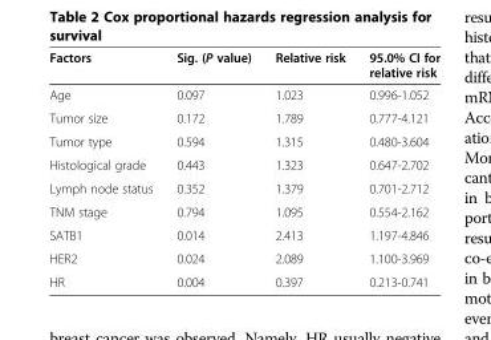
<table><thead><tr><td>Factors</td><td>Sig. (P value)</td><td>Relative risk</td><td>95.0% CI for relative risk</td></tr></thead><tbody><tr><td>Age</td><td>0.097</td><td>1.023</td><td>0.996-1.052</td></tr><tr><td>Tumor size</td><td>0.172</td><td>1.789</td><td>0.777-4.121</td></tr><tr><td>Tumor type</td><td>0.594</td><td>1.315</td><td>0.480-3.604</td></tr><tr><td>Histological grade</td><td>0.443</td><td>1.323</td><td>0.647-2.702</td></tr><tr><td>Lymph node status</td><td>0.352</td><td>1.379</td><td>0.701-2.712</td></tr><tr><td>TNM stage</td><td>0.794</td><td>1.095</td><td>0.554-2.162</td></tr><tr><td>SATB1</td><td>0.014</td><td>2.413</td><td>1.197-4.846</td></tr><tr><td>HER2</td><td>0.024</td><td>2.089</td><td>1.100-3.969</td></tr><tr><td>HR</td><td>0.004</td><td>0.397</td><td>0.213-0.741</td></tr></tbody></table>